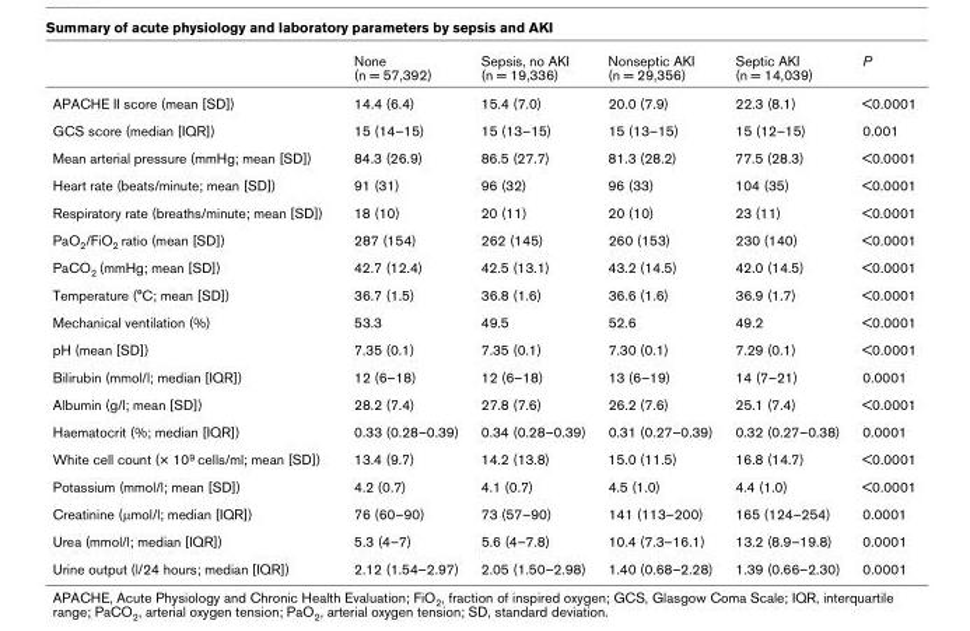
<table><thead><tr><td></td><td>None (n = 57,392)</td><td>Sepsis, no AKI (n = 19,336)</td><td>Nonseptic AKI (n = 29,356)</td><td>Septic AKI (n = 14,039)</td><td>P</td></tr></thead><tbody><tr><td>APACHE II score (mean [SD])</td><td>14.4 (6.4)</td><td>15.4 (7.0)</td><td>20.0 (7.9)</td><td>22.3 (8.1)</td><td>&lt;0.0001</td></tr><tr><td>GCS score (median [IQR])</td><td>15 (14–15)</td><td>15 (13–15)</td><td>15 (13–15)</td><td>15 (12–15)</td><td>0.001</td></tr><tr><td>Mean arterial pressure (mmHg; mean [SD])</td><td>84.3 (26.9)</td><td>86.5 (27.7)</td><td>81.3 (28.2)</td><td>77.5 (28.3)</td><td>&lt;0.0001</td></tr><tr><td>Heart rate (beats/minute; mean [SD])</td><td>91 (31)</td><td>96 (32)</td><td>96 (33)</td><td>104 (35)</td><td>&lt;0.0001</td></tr><tr><td>Respiratory rate (breaths/minute; mean [SD])</td><td>18 (10)</td><td>20 (11)</td><td>20 (10)</td><td>23 (11)</td><td>&lt;0.0001</td></tr><tr><td>PaO<sub>2</sub>/FiO<sub>2</sub> ratio (mean [SD])</td><td>287 (154)</td><td>262 (145)</td><td>260 (153)</td><td>230 (140)</td><td>&lt;0.0001</td></tr><tr><td>PaCO<sub>2</sub> (mmHg; mean [SD])</td><td>42.7 (12.4)</td><td>42.5 (13.1)</td><td>43.2 (14.5)</td><td>42.0 (14.5)</td><td>&lt;0.0001</td></tr><tr><td>Temperature (°C; mean [SD])</td><td>36.7 (1.5)</td><td>36.8 (1.6)</td><td>36.6 (1.6)</td><td>36.9 (1.7)</td><td>&lt;0.0001</td></tr><tr><td>Mechanical ventilation (%)</td><td>53.3</td><td>49.5</td><td>52.6</td><td>49.2</td><td>&lt;0.0001</td></tr><tr><td>pH (mean [SD])</td><td>7.35 (0.1)</td><td>7.35 (0.1)</td><td>7.30 (0.1)</td><td>7.29 (0.1)</td><td>&lt;0.0001</td></tr><tr><td>Bilirubin (mmol/l; median [IQR])</td><td>12 (6–18)</td><td>12 (6–18)</td><td>13 (6–19)</td><td>14 (7–21)</td><td>0.0001</td></tr><tr><td>Albumin (g/l; mean [SD])</td><td>28.2 (7.4)</td><td>27.8 (7.6)</td><td>26.2 (7.6)</td><td>25.1 (7.4)</td><td>&lt;0.0001</td></tr><tr><td>Haematocrit (%; median [IQR])</td><td>0.33 (0.28–0.39)</td><td>0.34 (0.28–0.39)</td><td>0.31 (0.27–0.39)</td><td>0.32 (0.27–0.38)</td><td>0.0001</td></tr><tr><td>White cell count (× 10<sup>9</sup> cells/ml; mean [SD])</td><td>13.4 (9.7)</td><td>14.2 (13.8)</td><td>15.0 (11.5)</td><td>16.8 (14.7)</td><td>&lt;0.0001</td></tr><tr><td>Potassium (mmol/l; mean [SD])</td><td>4.2 (0.7)</td><td>4.1 (0.7)</td><td>4.5 (1.0)</td><td>4.4 (1.0)</td><td>&lt;0.0001</td></tr><tr><td>Creatinine (μmol/l; median [IQR])</td><td>76 (60–90)</td><td>73 (57–90)</td><td>141 (113–200)</td><td>165 (124–254)</td><td>0.0001</td></tr><tr><td>Urea (mmol/l; median [IQR])</td><td>5.3 (4–7)</td><td>5.6 (4–7.8)</td><td>10.4 (7.3–16.1)</td><td>13.2 (8.9–19.8)</td><td>0.0001</td></tr><tr><td>Urine output (l/24 hours; median [IQR])</td><td>2.12 (1.54–2.97)</td><td>2.05 (1.50–2.98)</td><td>1.40 (0.68–2.28)</td><td>1.39 (0.66–2.30)</td><td>0.0001</td></tr></tbody></table>